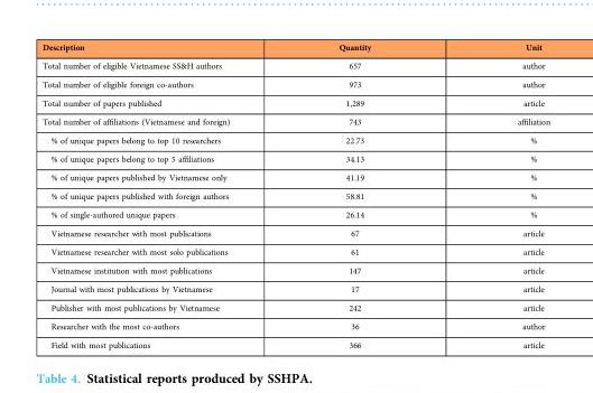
<table><thead><tr><td>Description</td><td>Quantity</td><td>Unit</td></tr></thead><tbody><tr><td>Total number of eligible Vietnamese SS&amp;H authors</td><td>657</td><td>author</td></tr><tr><td>Total number of eligible foreign co-authors</td><td>973</td><td>author</td></tr><tr><td>Total number of papers published</td><td>1,289</td><td>article</td></tr><tr><td>Total number of affiliations (Vietnamese and foreign)</td><td>743</td><td>affiliation</td></tr><tr><td>% of unique papers belong to top 10 researchers</td><td>22.73</td><td>%</td></tr><tr><td>% of unique papers belong to top 5 affiliations</td><td>34.13</td><td>%</td></tr><tr><td>% of unique papers published by Vietnamese only</td><td>41.19</td><td>%</td></tr><tr><td>% of unique papers published with foreign authors</td><td>58.81</td><td>%</td></tr><tr><td>% of single-authored unique papers</td><td>26.14</td><td>%</td></tr><tr><td>Vietnamese researcher with most publications</td><td>67</td><td>article</td></tr><tr><td>Vietnamese researcher with most solo publications</td><td>61</td><td>article</td></tr><tr><td>Vietnamese institution with most publications</td><td>147</td><td>article</td></tr><tr><td>Journal with most publications by Vietnamese</td><td>17</td><td>article</td></tr><tr><td>Publisher with most publications by Vietnamese</td><td>242</td><td>article</td></tr><tr><td>Researcher with the most co-authors</td><td>36</td><td>author</td></tr><tr><td>Field with most publications</td><td>366</td><td>article</td></tr></tbody></table>